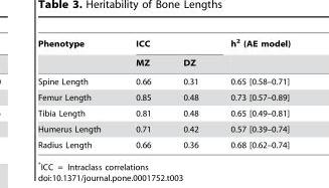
<table><thead><tr><td rowspan="2">Phenotype</td><td colspan="2">ICC</td><td rowspan="2">h<sup>2</sup> (AE model)</td></tr><tr><td>MZ</td><td>DZ</td></tr></thead><tbody><tr><td>Spine Length</td><td>0.66</td><td>0.31</td><td>0.65 [0.58–0.71]</td></tr><tr><td>Femur Length</td><td>0.85</td><td>0.48</td><td>0.73 [0.57–0.89]</td></tr><tr><td>Tibia Length</td><td>0.81</td><td>0.48</td><td>0.65 [0.49–0.81]</td></tr><tr><td>Humerus Length</td><td>0.71</td><td>0.42</td><td>0.57 [0.39–0.74]</td></tr><tr><td>Radius Length</td><td>0.66</td><td>0.36</td><td>0.68 [0.62–0.74]</td></tr></tbody></table>